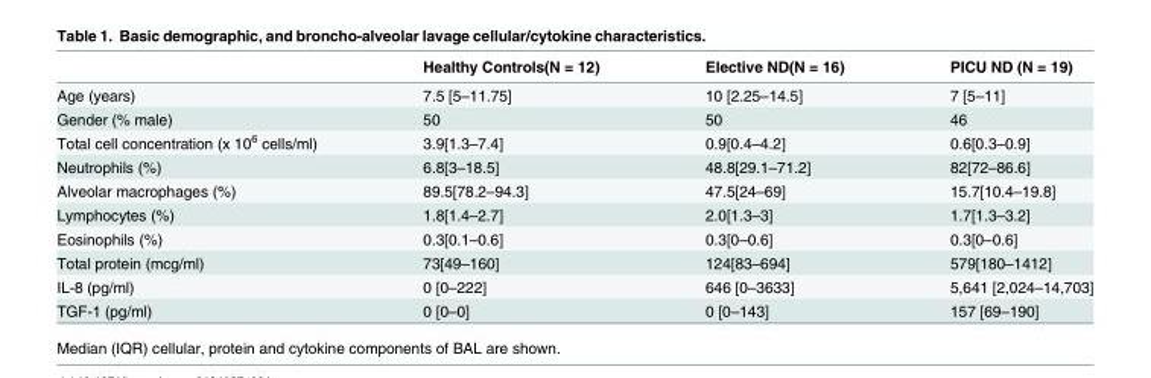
<table><thead><tr><td></td><td>Healthy Controls(N = 12)</td><td>Elective ND(N = 16)</td><td>PICU ND (N = 19)</td></tr></thead><tbody><tr><td>Age (years)</td><td>7.5 [5–11.75]</td><td>10 [2.25–14.5]</td><td>7 [5–11]</td></tr><tr><td>Gender (% male)</td><td>50</td><td>50</td><td>46</td></tr><tr><td>Total cell concentration (x 10<sup>6</sup> cells/ml)</td><td>3.9[1.3–7.4]</td><td>0.9[0.4–4.2]</td><td>0.6[0.3–0.9]</td></tr><tr><td>Neutrophils (%)</td><td>6.8[3–18.5]</td><td>48.8[29.1–71.2]</td><td>82[72–86.6]</td></tr><tr><td>Alveolar macrophages (%)</td><td>89.5[78.2–94.3]</td><td>47.5[24–69]</td><td>15.7[10.4–19.8]</td></tr><tr><td>Lymphocytes (%)</td><td>1.8[1.4–2.7]</td><td>2.0[1.3–3]</td><td>1.7[1.3–3.2]</td></tr><tr><td>Eosinophils (%)</td><td>0.3[0.1–0.6]</td><td>0.3[0–0.6]</td><td>0.3[0–0.6]</td></tr><tr><td>Total protein (mcg/ml)</td><td>73[49–160]</td><td>124[83–694]</td><td>579[180–1412]</td></tr><tr><td>IL-8 (pg/ml)</td><td>0 [0–222]</td><td>646 [0–3633]</td><td>5,641 [2,024–14,703]</td></tr><tr><td>TGF-1 (pg/ml)</td><td>0 [0–0]</td><td>0 [0–143]</td><td>157 [69–190]</td></tr></tbody></table>